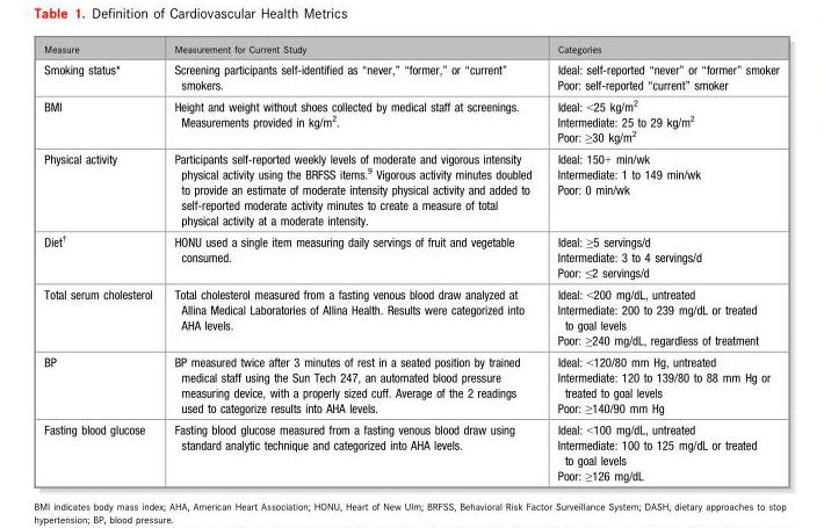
<table><thead><tr><td>Measure</td><td>Measurement for Current Study</td><td>Categories</td></tr></thead><tbody><tr><td>Smoking status*</td><td>Screening participants self-identified as “never,” “former,” or “current” smokers.</td><td>Ideal: self-reported “never” or “former” smoker Poor: self-reported “current” smoker</td></tr><tr><td>BMI</td><td>Height and weight without shoes collected by medical staff at screenings. Measurements provided in kg/m<sup>2</sup>.</td><td>Ideal: &lt;25 kg/m<sup>2</sup> Intermediate: 25 to 29 kg/m<sup>2</sup> Poor: ≥30 kg/m<sup>2</sup></td></tr><tr><td>Physical activity</td><td>Participants self-reported weekly levels of moderate and vigorous intensity physical activity using the BRFSS items.<sup>9</sup> Vigorous activity minutes doubled to provide an estimate of moderate intensity physical activity and added to self-reported moderate activity minutes to create a measure of total physical activity at a moderate intensity.</td><td>Ideal: 150+ min/wk Intermediate: 1 to 149 min/wk Poor: 0 min/wk</td></tr><tr><td>Diet†</td><td>HONU used a single item measuring daily servings of fruit and vegetable consumed.</td><td>Ideal: ≥5 servings/d Intermediate: 3 to 4 servings/d Poor: ≤2 servings/d</td></tr><tr><td>Total serum cholesterol</td><td>Total cholesterol measured from a fasting venous blood draw analyzed at Allina Medical Laboratories of Allina Health. Results were categorized into AHA levels.</td><td>Ideal: &lt;200 mg/dL, untreated Intermediate: 200 to 239 mg/dL or treated to goal levels Poor: ≥240 mg/dL, regardless of treatment</td></tr><tr><td>BP</td><td>BP measured twice after 3 minutes of rest in a seated position by trained medical staff using the Sun Tech 247, an automated blood pressure measuring device, with a properly sized cuff. Average of the 2 readings used to categorize results into AHA levels.</td><td>Ideal: &lt;120/80 mm Hg, untreated Intermediate: 120 to 139/80 to 88 mm Hg or treated to goal levels Poor: ≥140/90 mm Hg</td></tr><tr><td>Fasting blood glucose</td><td>Fasting blood glucose measured from a fasting venous blood draw using standard analytic technique and categorized into AHA levels.</td><td>Ideal: &lt;100 mg/dL, untreated Intermediate: 100 to 125 mg/dL or treated to goal levels Poor: ≥126 mg/dL</td></tr></tbody></table>